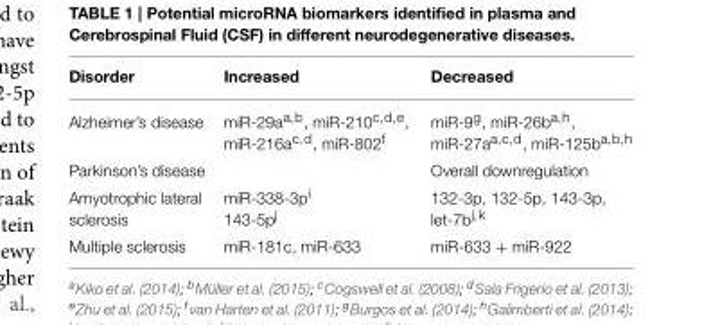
<table><thead><tr><td>Disorder</td><td>Increased</td><td>Decreased</td></tr></thead><tbody><tr><td>Alzheimer’s disease</td><td>miR-29a<sup>a,b</sup>, miR-210<sup>c,d,e</sup>, miR-216a<sup>c,d</sup>, miR-802<sup>f</sup></td><td>miR-9<sup>g</sup>, miR-26b<sup>a,h</sup>, miR-27a<sup>a,c,d</sup>, miR-125b<sup>a,b,h</sup></td></tr><tr><td>Parkinson’s disease</td><td></td><td>Overall downregulation</td></tr><tr><td>Amyotrophic lateral sclerosis</td><td>miR-338-3p<sup>i</sup> 143-5p<sup>j</sup></td><td>132-3p, 132-5p, 143-3p, let-7b<sup>j,k</sup></td></tr><tr><td>Multiple sclerosis</td><td>miR-181c, miR-633</td><td>miR-633 + miR-922</td></tr></tbody></table>